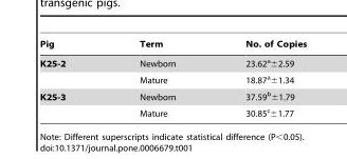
<table><thead><tr><td>Pig</td><td>Term</td><td>No. of Copies</td></tr></thead><tbody><tr><td rowspan="2">K25-2</td><td>Newborn</td><td>23.62<sup>a</sup>±2.59</td></tr><tr><td>Mature</td><td>18.87<sup>a</sup>±1.34</td></tr><tr><td rowspan="2">K25-3</td><td>Newborn</td><td>37.59<sup>b</sup>±1.79</td></tr><tr><td>Mature</td><td>30.85<sup>c</sup>±1.77</td></tr></tbody></table>